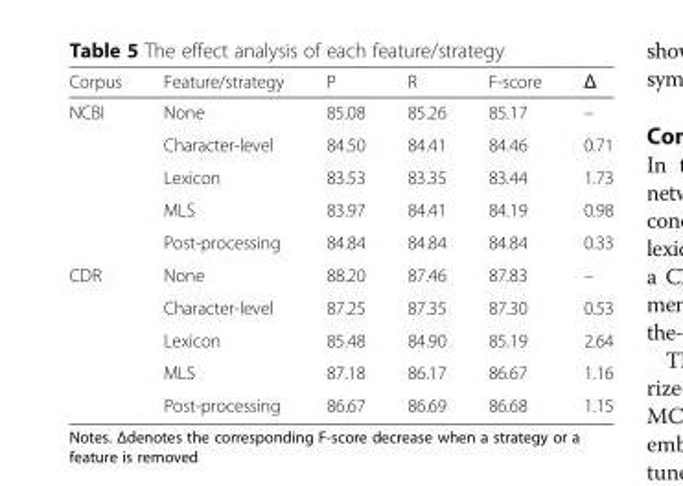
<table><thead><tr><td>Corpus</td><td>Feature/strategy</td><td>P</td><td>R</td><td>F-score</td><td>Δ</td></tr></thead><tbody><tr><td rowspan="5">NCBI</td><td>None</td><td>85.08</td><td>85.26</td><td>85.17</td><td>–</td></tr><tr><td>Character-level</td><td>84.50</td><td>84.41</td><td>84.46</td><td>0.71</td></tr><tr><td>Lexicon</td><td>83.53</td><td>83.35</td><td>83.44</td><td>1.73</td></tr><tr><td>MLS</td><td>83.97</td><td>84.41</td><td>84.19</td><td>0.98</td></tr><tr><td>Post-processing</td><td>84.84</td><td>84.84</td><td>84.84</td><td>0.33</td></tr><tr><td rowspan="5">CDR</td><td>None</td><td>88.20</td><td>87.46</td><td>87.83</td><td>–</td></tr><tr><td>Character-level</td><td>87.25</td><td>87.35</td><td>87.30</td><td>0.53</td></tr><tr><td>Lexicon</td><td>85.48</td><td>84.90</td><td>85.19</td><td>2.64</td></tr><tr><td>MLS</td><td>87.18</td><td>86.17</td><td>86.67</td><td>1.16</td></tr><tr><td>Post-processing</td><td>86.67</td><td>86.69</td><td>86.68</td><td>1.15</td></tr></tbody></table>